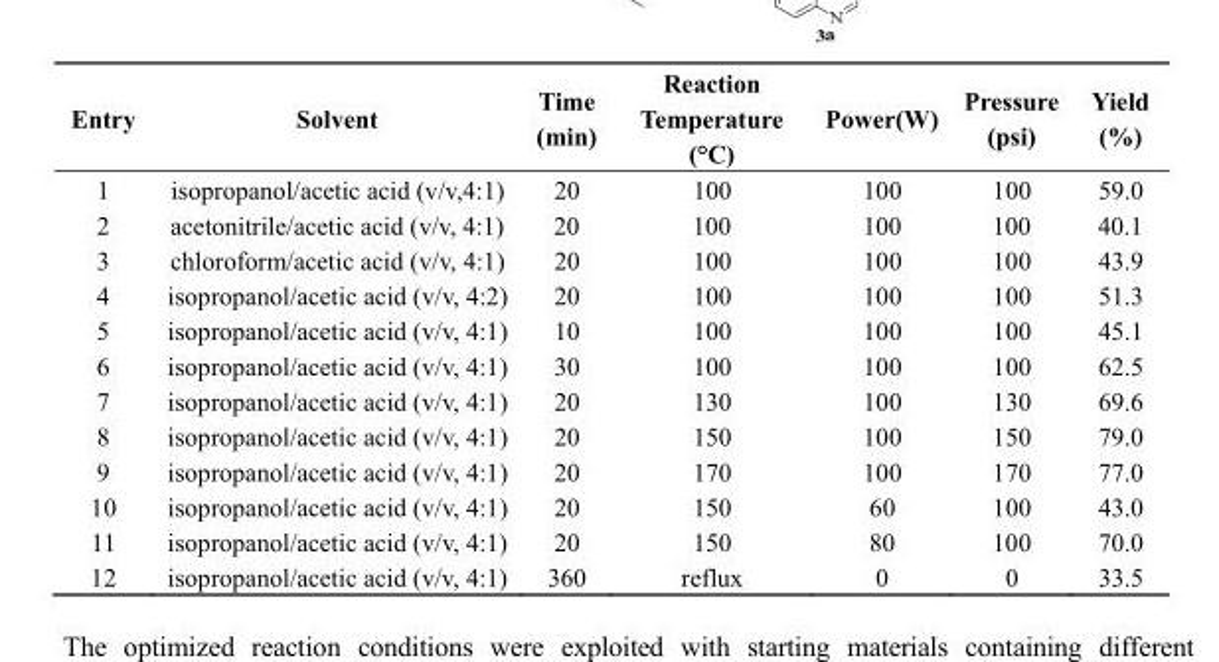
<table><thead><tr><td>Entry</td><td>Solvent</td><td>Time (min)</td><td>Reaction Temperature (°C)</td><td>Power(W)</td><td>Pressure (psi)</td><td>Yield (%)</td></tr></thead><tbody><tr><td>1</td><td>isopropanol/acetic acid (v/v,4:1)</td><td>20</td><td>100</td><td>100</td><td>100</td><td>59.0</td></tr><tr><td>2</td><td>acetonitrile/acetic acid (v/v, 4:1)</td><td>20</td><td>100</td><td>100</td><td>100</td><td>40.1</td></tr><tr><td>3</td><td>chloroform/acetic acid (v/v, 4:1)</td><td>20</td><td>100</td><td>100</td><td>100</td><td>43.9</td></tr><tr><td>4</td><td>isopropanol/acetic acid (v/v, 4:2)</td><td>20</td><td>100</td><td>100</td><td>100</td><td>51.3</td></tr><tr><td>5</td><td>isopropanol/acetic acid (v/v, 4:1)</td><td>10</td><td>100</td><td>100</td><td>100</td><td>45.1</td></tr><tr><td>6</td><td>isopropanol/acetic acid (v/v, 4:1)</td><td>30</td><td>100</td><td>100</td><td>100</td><td>62.5</td></tr><tr><td>7</td><td>isopropanol/acetic acid (v/v, 4:1)</td><td>20</td><td>130</td><td>100</td><td>130</td><td>69.6</td></tr><tr><td>8</td><td>isopropanol/acetic acid (v/v, 4:1)</td><td>20</td><td>150</td><td>100</td><td>150</td><td>79.0</td></tr><tr><td>9</td><td>isopropanol/acetic acid (v/v, 4:1)</td><td>20</td><td>170</td><td>100</td><td>170</td><td>77.0</td></tr><tr><td>10</td><td>isopropanol/acetic acid (v/v, 4:1)</td><td>20</td><td>150</td><td>60</td><td>100</td><td>43.0</td></tr><tr><td>11</td><td>isopropanol/acetic acid (v/v, 4:1)</td><td>20</td><td>150</td><td>80</td><td>100</td><td>70.0</td></tr><tr><td>12</td><td>isopropanol/acetic acid (v/v, 4:1)</td><td>360</td><td>reflux</td><td>0</td><td>0</td><td>33.5</td></tr></tbody></table>